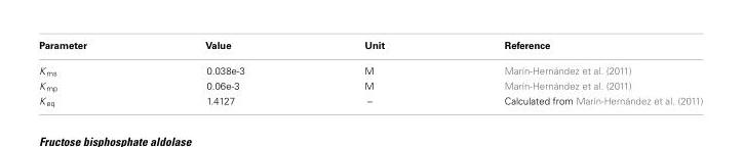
<table><thead><tr><td>Parameter</td><td>Value</td><td>Unit</td><td>Reference</td></tr></thead><tbody><tr><td>K <sub>ms</sub></td><td>0.038e-3</td><td>M</td><td>Marín-Hernández et al. (2011)</td></tr><tr><td>K <sub>mp</sub></td><td>0.06e-3</td><td>M</td><td>Marín-Hernández et al. (2011)</td></tr><tr><td>K <sub>eq</sub></td><td>1.4127</td><td>–</td><td>Calculated from Marín-Hernández et al. (2011)</td></tr></tbody></table>